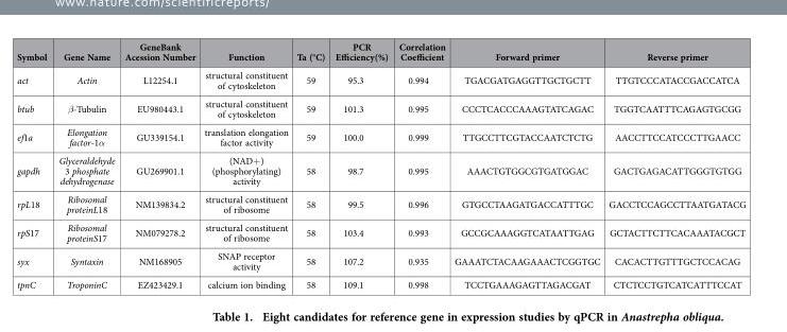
<table><thead><tr><td>Symbol</td><td>Gene Name</td><td>GeneBank Acession Number</td><td>Function</td><td>Ta (°C)</td><td>PCR Efficiency(%)</td><td>Correlation Coefficient</td><td>Forward primer</td><td>Reverse primer</td></tr></thead><tbody><tr><td>act</td><td>Actin</td><td>L12254.1</td><td>structural constituent of cytoskeleton</td><td>59</td><td>95.3</td><td>0.994</td><td>TGACGATGAGGTTGCTGCTT</td><td>TTGTCCCATACCGACCATCA</td></tr><tr><td>btub</td><td>β-Tubulin</td><td>EU980443.1</td><td>structural constituent of cytoskeleton</td><td>59</td><td>101.3</td><td>0.995</td><td>CCCTCACCCAAAGTATCAGAC</td><td>TGGTCAATTTCAGAGTGCGG</td></tr><tr><td>ef1a</td><td>Elongation factor-1α</td><td>GU339154.1</td><td>translation elongation factor activity</td><td>59</td><td>100.0</td><td>0.999</td><td>TTGCCTTCGTACCAATCTCTG</td><td>AACCTTCCATCCCTTGAACC</td></tr><tr><td>gapdh</td><td>Glyceraldehyde 3 phosphate dehydrogenase</td><td>GU269901.1</td><td>(NAD+ ) (phosphorylating) activity</td><td>58</td><td>98.7</td><td>0.995</td><td>AAACTGTGGCGTGATGGAC</td><td>GACTGAGACATTGGGTGTGG</td></tr><tr><td>rpL18</td><td>Ribosomal proteinL18</td><td>NM139834.2</td><td>structural constituent of ribosome</td><td>58</td><td>99.5</td><td>0.996</td><td>GTGCCTAAGATGACCATTTGC</td><td>GACCTCCAGCCTTAATGATACG</td></tr><tr><td>rpS17</td><td>Ribosomal proteinS17</td><td>NM079278.2</td><td>structural constituent of ribosome</td><td>58</td><td>103.4</td><td>0.993</td><td>GCCGCAAAGGTCATAATTGAG</td><td>GCTACTTCTTCACAAATACGCT</td></tr><tr><td>syx</td><td>Syntaxin</td><td>NM168905</td><td>SNAP receptor activity</td><td>58</td><td>107.2</td><td>0.935</td><td>GAAATCTACAAGAAACTCGGTGC</td><td>CACACTTGTTTGCTCCACAG</td></tr><tr><td>tpnC</td><td>TroponinC</td><td>EZ423429.1</td><td>calcium ion binding</td><td>58</td><td>109.1</td><td>0.998</td><td>TCCTGAAAGAGTTAGACGAT</td><td>CTCTCCTGTCATCATTTCCAT</td></tr></tbody></table>